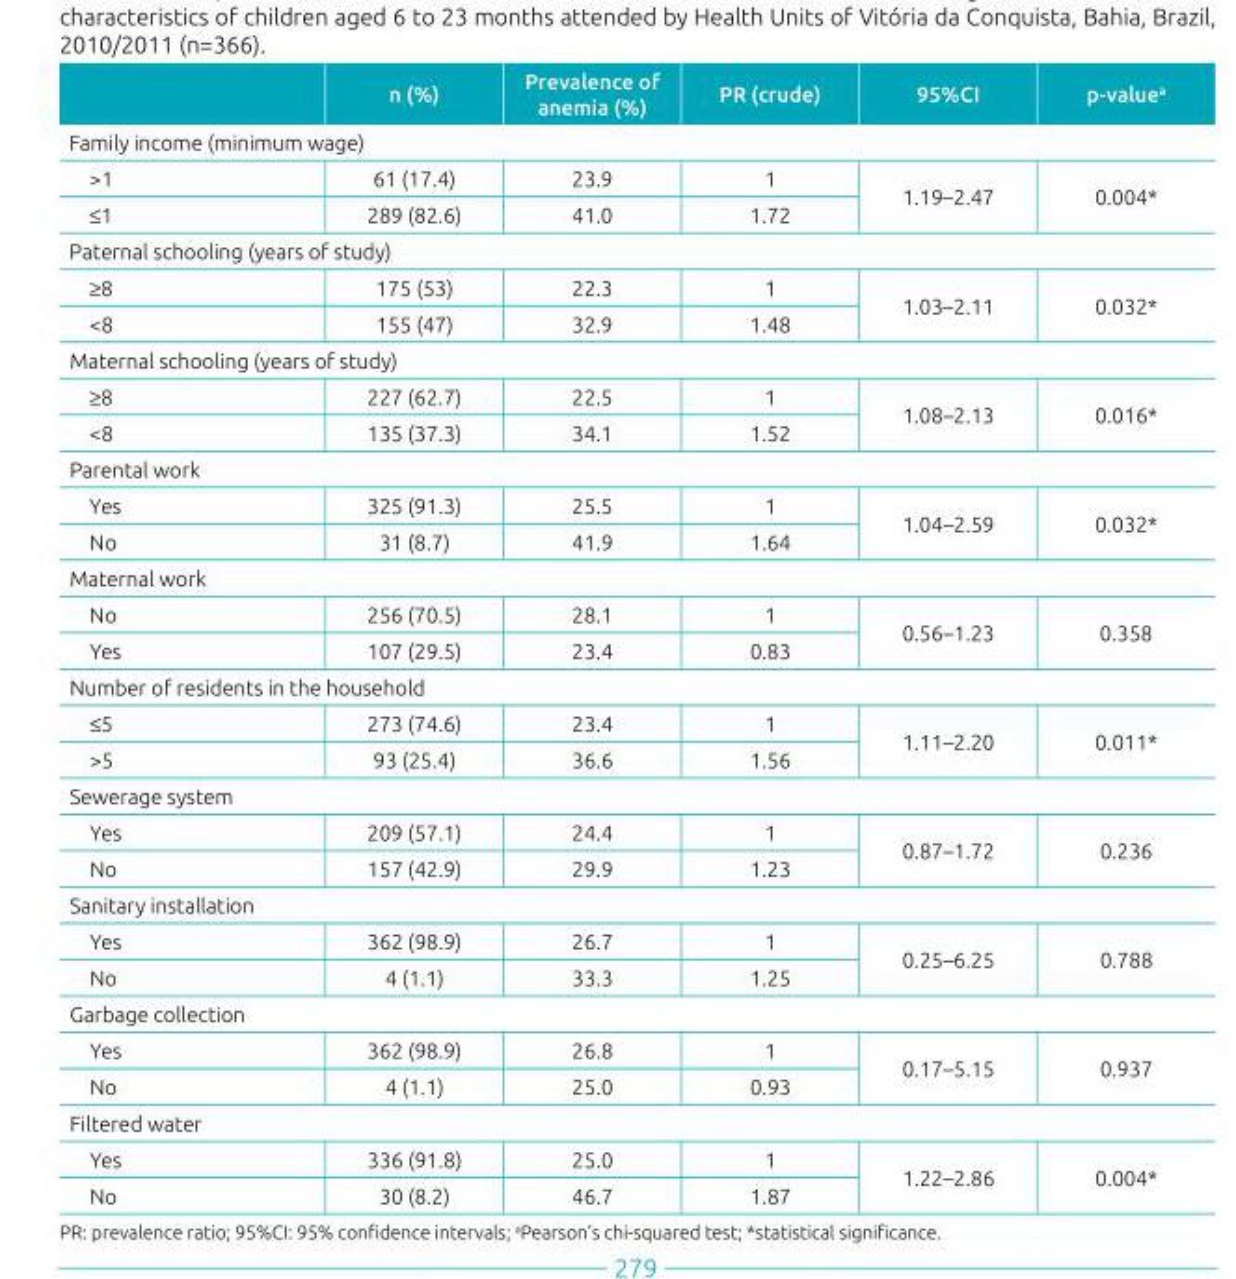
<table><thead><tr><td></td><td>n (%)</td><td>Prevalence of anemia (%)</td><td>PR (crude)</td><td>95%CI</td><td>p‑value<sup>a</sup></td></tr></thead><tbody><tr><td colspan="6">Family income (minimum wage)</td></tr><tr><td>&gt;1</td><td>61 (17.4)</td><td>23.9</td><td>1</td><td rowspan="2">1.19–2.47</td><td rowspan="2">0.004*</td></tr><tr><td>≤1</td><td>289 (82.6)</td><td>41.0</td><td>1.72</td></tr><tr><td colspan="6">Paternal schooling (years of study)</td></tr><tr><td>≥8</td><td>175 (53)</td><td>22.3</td><td>1</td><td rowspan="2">1.03–2.11</td><td rowspan="2">0.032*</td></tr><tr><td>&lt;8</td><td>155 (47)</td><td>32.9</td><td>1.48</td></tr><tr><td colspan="6">Maternal schooling (years of study)</td></tr><tr><td>≥8</td><td>227 (62.7)</td><td>22.5</td><td>1</td><td rowspan="2">1.08–2.13</td><td rowspan="2">0.016*</td></tr><tr><td>&lt;8</td><td>135 (37.3)</td><td>34.1</td><td>1.52</td></tr><tr><td colspan="6">Parental work</td></tr><tr><td>Yes</td><td>325 (91.3)</td><td>25.5</td><td>1</td><td rowspan="2">1.04–2.59</td><td rowspan="2">0.032*</td></tr><tr><td>No</td><td>31 (8.7)</td><td>41.9</td><td>1.64</td></tr><tr><td colspan="6">Maternal work</td></tr><tr><td>No</td><td>256 (70.5)</td><td>28.1</td><td>1</td><td rowspan="2">0.56–1.23</td><td rowspan="2">0.358</td></tr><tr><td>Yes</td><td>107 (29.5)</td><td>23.4</td><td>0.83</td></tr><tr><td colspan="6">Number of residents in the household</td></tr><tr><td>≤5</td><td>273 (74.6)</td><td>23.4</td><td>1</td><td rowspan="2">1.11–2.20</td><td rowspan="2">0.011*</td></tr><tr><td>&gt;5</td><td>93 (25.4)</td><td>36.6</td><td>1.56</td></tr><tr><td colspan="6">Sewerage system</td></tr><tr><td>Yes</td><td>209 (57.1)</td><td>24.4</td><td>1</td><td rowspan="2">0.87–1.72</td><td rowspan="2">0.236</td></tr><tr><td>No</td><td>157 (42.9)</td><td>29.9</td><td>1.23</td></tr><tr><td colspan="6">Sanitary installation</td></tr><tr><td>Yes</td><td>362 (98.9)</td><td>26.7</td><td>1</td><td rowspan="2">0.25–6.25</td><td rowspan="2">0.788</td></tr><tr><td>No</td><td>4 (1.1)</td><td>33.3</td><td>1.25</td></tr><tr><td colspan="6">Garbage collection</td></tr><tr><td>Yes</td><td>362 (98.9)</td><td>26.8</td><td>1</td><td rowspan="2">0.17–5.15</td><td rowspan="2">0.937</td></tr><tr><td>No</td><td>4 (1.1)</td><td>25.0</td><td>0.93</td></tr><tr><td colspan="6">Filtered water</td></tr><tr><td>Yes</td><td>336 (91.8)</td><td>25.0</td><td>1</td><td rowspan="2">1.22–2.86</td><td rowspan="2">0.004*</td></tr><tr><td>No</td><td>30 (8.2)</td><td>46.7</td><td>1.87</td></tr></tbody></table>